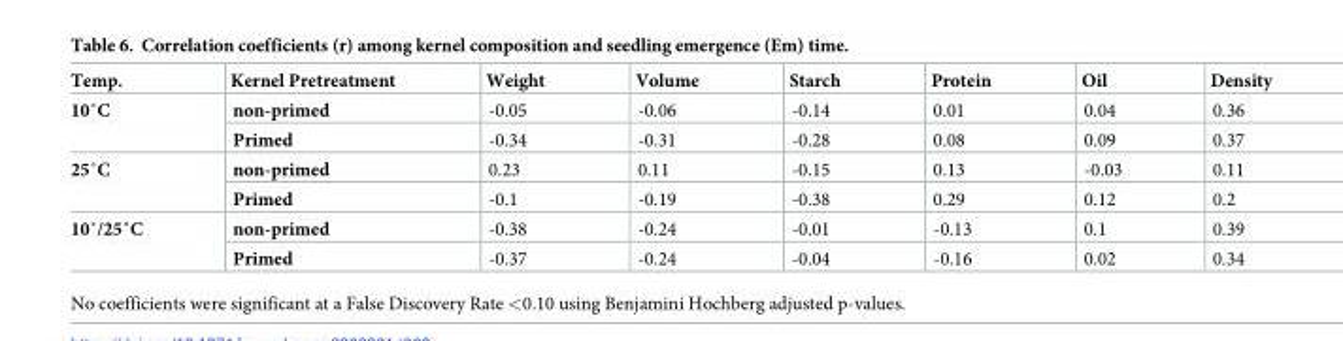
<table><thead><tr><td>Temp.</td><td>Kernel Pretreatment</td><td>Weight</td><td>Volume</td><td>Starch</td><td>Protein</td><td>Oil</td><td>Density</td></tr></thead><tbody><tr><td rowspan="2">10˚C</td><td>non-primed</td><td>-0.05</td><td>-0.06</td><td>-0.14</td><td>0.01</td><td>0.04</td><td>0.36</td></tr><tr><td>Primed</td><td>-0.34</td><td>-0.31</td><td>-0.28</td><td>0.08</td><td>0.09</td><td>0.37</td></tr><tr><td rowspan="2">25˚C</td><td>non-primed</td><td>0.23</td><td>0.11</td><td>-0.15</td><td>0.13</td><td>-0.03</td><td>0.11</td></tr><tr><td>Primed</td><td>-0.1</td><td>-0.19</td><td>-0.38</td><td>0.29</td><td>0.12</td><td>0.2</td></tr><tr><td rowspan="2">10˚/25˚C</td><td>non-primed</td><td>-0.38</td><td>-0.24</td><td>-0.01</td><td>-0.13</td><td>0.1</td><td>0.39</td></tr><tr><td>Primed</td><td>-0.37</td><td>-0.24</td><td>-0.04</td><td>-0.16</td><td>0.02</td><td>0.34</td></tr></tbody></table>